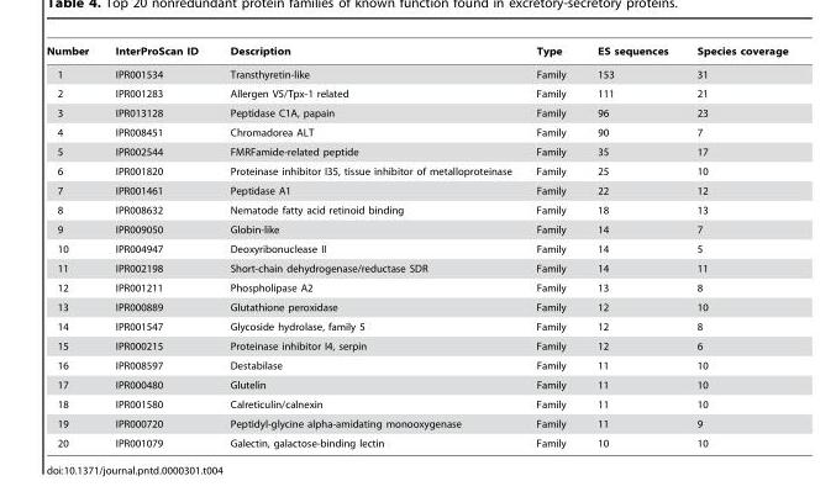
<table><thead><tr><td>Number</td><td>InterProScan ID</td><td>Description</td><td>Type</td><td>ES sequences</td><td>Species coverage</td></tr></thead><tbody><tr><td>1</td><td>IPR001534</td><td>Transthyretin-like</td><td>Family</td><td>153</td><td>31</td></tr><tr><td>2</td><td>IPR001283</td><td>Allergen V5/Tpx-1 related</td><td>Family</td><td>111</td><td>21</td></tr><tr><td>3</td><td>IPR013128</td><td>Peptidase C1A, papain</td><td>Family</td><td>96</td><td>23</td></tr><tr><td>4</td><td>IPR008451</td><td>Chromadorea ALT</td><td>Family</td><td>90</td><td>7</td></tr><tr><td>5</td><td>IPR002544</td><td>FMRFamide-related peptide</td><td>Family</td><td>35</td><td>17</td></tr><tr><td>6</td><td>IPR001820</td><td>Proteinase inhibitor I35, tissue inhibitor of metalloproteinase</td><td>Family</td><td>25</td><td>10</td></tr><tr><td>7</td><td>IPR001461</td><td>Peptidase A1</td><td>Family</td><td>22</td><td>12</td></tr><tr><td>8</td><td>IPR008632</td><td>Nematode fatty acid retinoid binding</td><td>Family</td><td>18</td><td>13</td></tr><tr><td>9</td><td>IPR009050</td><td>Globin-like</td><td>Family</td><td>14</td><td>7</td></tr><tr><td>10</td><td>IPR004947</td><td>Deoxyribonuclease II</td><td>Family</td><td>14</td><td>5</td></tr><tr><td>11</td><td>IPR002198</td><td>Short-chain dehydrogenase/reductase SDR</td><td>Family</td><td>14</td><td>11</td></tr><tr><td>12</td><td>IPR001211</td><td>Phospholipase A2</td><td>Family</td><td>13</td><td>8</td></tr><tr><td>13</td><td>IPR000889</td><td>Glutathione peroxidase</td><td>Family</td><td>12</td><td>10</td></tr><tr><td>14</td><td>IPR001547</td><td>Glycoside hydrolase, family 5</td><td>Family</td><td>12</td><td>8</td></tr><tr><td>15</td><td>IPR000215</td><td>Proteinase inhibitor I4, serpin</td><td>Family</td><td>12</td><td>6</td></tr><tr><td>16</td><td>IPR008597</td><td>Destabilase</td><td>Family</td><td>11</td><td>10</td></tr><tr><td>17</td><td>IPR000480</td><td>Glutelin</td><td>Family</td><td>11</td><td>10</td></tr><tr><td>18</td><td>IPR001580</td><td>Calreticulin/calnexin</td><td>Family</td><td>11</td><td>10</td></tr><tr><td>19</td><td>IPR000720</td><td>Peptidyl-glycine alpha-amidating monooxygenase</td><td>Family</td><td>11</td><td>9</td></tr><tr><td>20</td><td>IPR001079</td><td>Galectin, galactose-binding lectin</td><td>Family</td><td>10</td><td>10</td></tr></tbody></table>